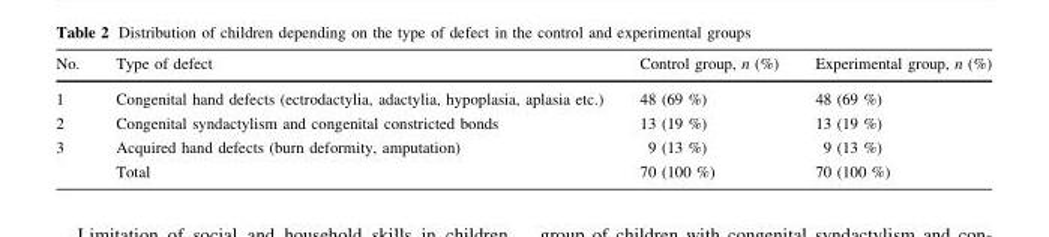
<table><thead><tr><td>No.</td><td>Type of defect</td><td>Control group, n (%)</td><td>Experimental group, n (%)</td></tr></thead><tbody><tr><td>1</td><td>Congenital hand defects (ectrodactylia, adactylia, hypoplasia, aplasia etc.)</td><td>48 (69 %)</td><td>48 (69 %)</td></tr><tr><td>2</td><td>Congenital syndactylism and congenital constricted bonds</td><td>13 (19 %)</td><td>13 (19 %)</td></tr><tr><td rowspan="2">3</td><td>Acquired hand defects (burn deformity, amputation)</td><td>9 (13 %)</td><td>9 (13 %)</td></tr><tr><td>Total</td><td>70 (100 %)</td><td>70 (100 %)</td></tr></tbody></table>